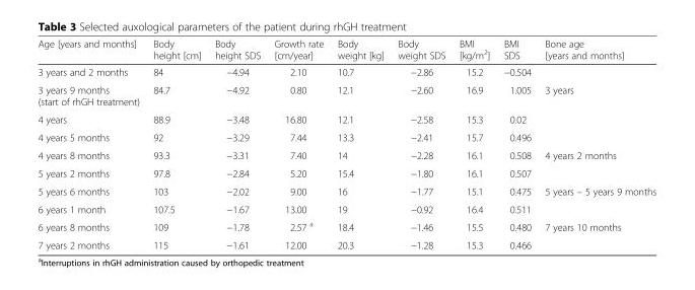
<table><thead><tr><td>Age [years and months]</td><td>Body height [cm]</td><td>Body height SDS</td><td>Growth rate [cm/year]</td><td>Body weight [kg]</td><td>Body weight SDS</td><td>BMI [kg/m<sup>2</sup>]</td><td>BMI SDS</td><td>Bone age [years and months]</td></tr></thead><tbody><tr><td>3 years and 2 months</td><td>84</td><td>−4.94</td><td>2.10</td><td>10.7</td><td>−2.86</td><td>15.2</td><td>−0.504</td><td></td></tr><tr><td>3 years 9 months (start of rhGH treatment)</td><td>84.7</td><td>−4.92</td><td>0.80</td><td>12.1</td><td>−2.60</td><td>16.9</td><td>1.005</td><td>3 years</td></tr><tr><td>4 years</td><td>88.9</td><td>−3.48</td><td>16.80</td><td>12.1</td><td>−2.58</td><td>15.3</td><td>0.02</td><td></td></tr><tr><td>4 years 5 months</td><td>92</td><td>−3.29</td><td>7.44</td><td>13.3</td><td>−2.41</td><td>15.7</td><td>0.496</td><td></td></tr><tr><td>4 years 8 months</td><td>93.3</td><td>−3.31</td><td>7.40</td><td>14</td><td>−2.28</td><td>16.1</td><td>0.508</td><td>4 years 2 months</td></tr><tr><td>5 years 2 months</td><td>97.8</td><td>−2.84</td><td>5.20</td><td>15.4</td><td>−1.80</td><td>16.1</td><td>0.507</td><td></td></tr><tr><td>5 years 6 months</td><td>103</td><td>−2.02</td><td>9.00</td><td>16</td><td>−1.77</td><td>15.1</td><td>0.475</td><td>5 years – 5 years 9 months</td></tr><tr><td>6 years 1 month</td><td>107.5</td><td>−1.67</td><td>13.00</td><td>19</td><td>−0.92</td><td>16.4</td><td>0.511</td><td></td></tr><tr><td>6 years 8 months</td><td>109</td><td>−1.78</td><td>2.57 <sup>a</sup></td><td>18.4</td><td>−1.46</td><td>15.5</td><td>0.480</td><td>7 years 10 months</td></tr><tr><td>7 years 2 months</td><td>115</td><td>−1.61</td><td>12.00</td><td>20.3</td><td>−1.28</td><td>15.3</td><td>0.466</td><td></td></tr></tbody></table>